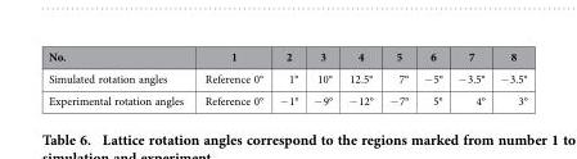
<table><thead><tr><td>No.</td><td>1</td><td>2</td><td>3</td><td>4</td><td>5</td><td>6</td><td>7</td><td>8</td></tr></thead><tbody><tr><td>Simulated rotation angles</td><td>Reference 0°</td><td>1°</td><td>10°</td><td>12.5°</td><td>7°</td><td>− 5°</td><td>− 3.5°</td><td>− 3.5°</td></tr><tr><td>Experimental rotation angles</td><td>Reference 0°</td><td>− 1°</td><td>− 9°</td><td>− 12°</td><td>− 7°</td><td>5°</td><td>4°</td><td>3°</td></tr></tbody></table>